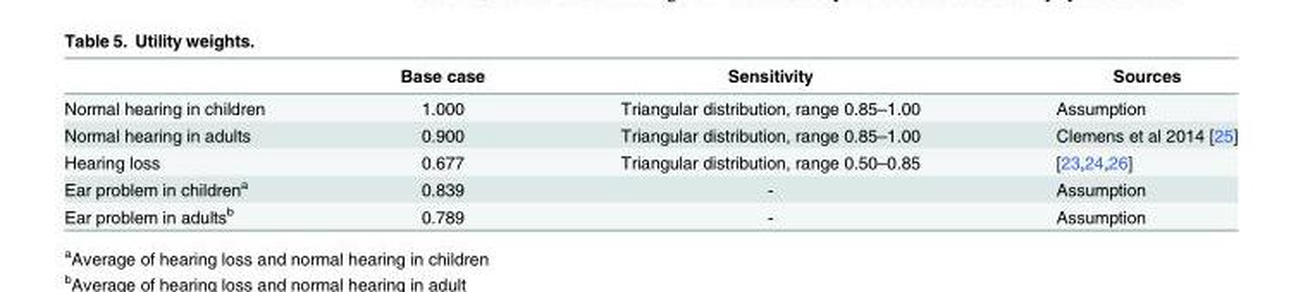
<table><thead><tr><td></td><td>Base case</td><td>Sensitivity</td><td>Sources</td></tr></thead><tbody><tr><td>Normal hearing in children</td><td>1.000</td><td>Triangular distribution, range 0.85–1.00</td><td>Assumption</td></tr><tr><td>Normal hearing in adults</td><td>0.900</td><td>Triangular distribution, range 0.85–1.00</td><td>Clemens et al 2014 [25]</td></tr><tr><td>Hearing loss</td><td>0.677</td><td>Triangular distribution, range 0.50–0.85</td><td>[23,24,26]</td></tr><tr><td>Ear problem in children<sup>a</sup></td><td>0.839</td><td>-</td><td>Assumption</td></tr><tr><td>Ear problem in adults<sup>b</sup></td><td>0.789</td><td>-</td><td>Assumption</td></tr></tbody></table>